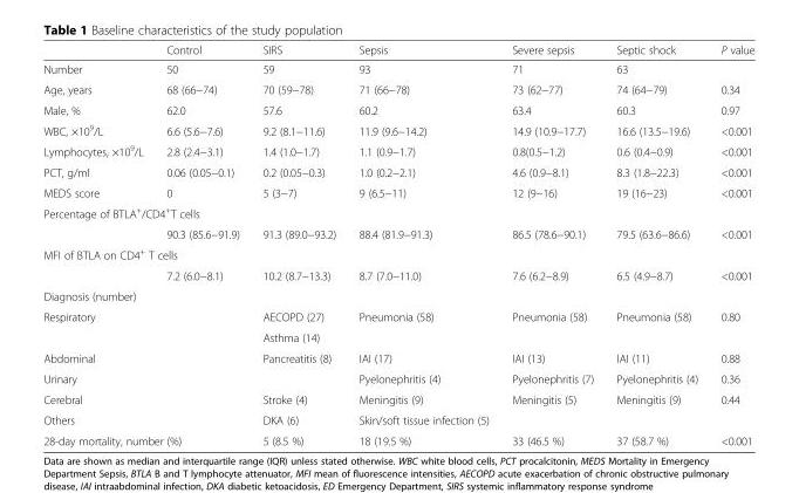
<table><thead><tr><td></td><td>Control</td><td>SIRS</td><td>Sepsis</td><td>Severe sepsis</td><td>Septic shock</td><td>P value</td></tr></thead><tbody><tr><td>Number</td><td>50</td><td>59</td><td>93</td><td>71</td><td>63</td><td></td></tr><tr><td>Age, years</td><td>68 (66−74)</td><td>70 (59−78)</td><td>71 (66−78)</td><td>73 (62−77)</td><td>74 (64−79)</td><td>0.34</td></tr><tr><td>Male, %</td><td>62.0</td><td>57.6</td><td>60.2</td><td>63.4</td><td>60.3</td><td>0.97</td></tr><tr><td>WBC, ×10<sup>9</sup>/L</td><td>6.6 (5.6−7.6)</td><td>9.2 (8.1−11.6)</td><td>11.9 (9.6−14.2)</td><td>14.9 (10.9−17.7)</td><td>16.6 (13.5−19.6)</td><td>&lt;0.001</td></tr><tr><td>Lymphocytes, ×10<sup>9</sup>/L</td><td>2.8 (2.4−3.1)</td><td>1.4 (1.0−1.7)</td><td>1.1 (0.9−1.7)</td><td>0.8(0.5−1.2)</td><td>0.6 (0.4−0.9)</td><td>&lt;0.001</td></tr><tr><td>PCT, g/ml</td><td>0.06 (0.05−0.1)</td><td>0.2 (0.05−0.3)</td><td>1.0 (0.2−2.1)</td><td>4.6 (0.9−8.1)</td><td>8.3 (1.8−22.3)</td><td>&lt;0.001</td></tr><tr><td>MEDS score</td><td>0</td><td>5 (3−7)</td><td>9 (6.5−11)</td><td>12 (9−16)</td><td>19 (16−23)</td><td>&lt;0.001</td></tr><tr><td colspan="7">Percentage of BTLA<sup>+</sup>/CD4<sup>+</sup>T cells</td></tr><tr><td></td><td>90.3 (85.6−91.9)</td><td>91.3 (89.0−93.2)</td><td>88.4 (81.9−91.3)</td><td>86.5 (78.6−90.1)</td><td>79.5 (63.6−86.6)</td><td>&lt;0.001</td></tr><tr><td colspan="7">MFI of BTLA on CD4<sup>+</sup> T cells</td></tr><tr><td></td><td>7.2 (6.0−8.1)</td><td>10.2 (8.7−13.3)</td><td>8.7 (7.0−11.0)</td><td>7.6 (6.2−8.9)</td><td>6.5 (4.9−8.7)</td><td>&lt;0.001</td></tr><tr><td colspan="7">Diagnosis (number)</td></tr><tr><td rowspan="2">Respiratory</td><td rowspan="2"></td><td>AECOPD (27)</td><td rowspan="2">Pneumonia (58)</td><td rowspan="2">Pneumonia (58)</td><td rowspan="2">Pneumonia (58)</td><td rowspan="2">0.80</td></tr><tr><td>Asthma (14)</td></tr><tr><td>Abdominal</td><td></td><td>Pancreatitis (8)</td><td>IAI (17)</td><td>IAI (13)</td><td>IAI (11)</td><td>0.88</td></tr><tr><td>Urinary</td><td></td><td></td><td>Pyelonephritis (4)</td><td>Pyelonephritis (7)</td><td>Pyelonephritis (4)</td><td>0.36</td></tr><tr><td>Cerebral</td><td></td><td>Stroke (4)</td><td>Meningitis (9)</td><td>Meningitis (5)</td><td>Meningitis (9)</td><td>0.44</td></tr><tr><td>Others</td><td></td><td>DKA (6)</td><td>Skin/soft tissue infection (5)</td><td></td><td></td><td></td></tr><tr><td colspan="2">28-day mortality, number (%)</td><td>5 (8.5 %)</td><td>18 (19.5 %)</td><td>33 (46.5 %)</td><td>37 (58.7 %)</td><td>&lt;0.001</td></tr></tbody></table>